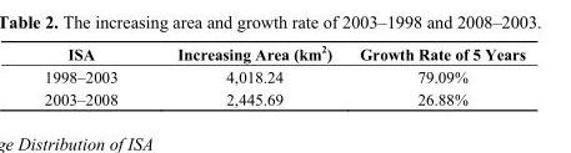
<table><thead><tr><td>ISA</td><td>Increasing Area (km<sup>2</sup>)</td><td>Growth Rate of 5 Years</td></tr></thead><tbody><tr><td>1998–2003</td><td>4,018.24</td><td>79.09%</td></tr><tr><td>2003–2008</td><td>2,445.69</td><td>26.88%</td></tr></tbody></table>